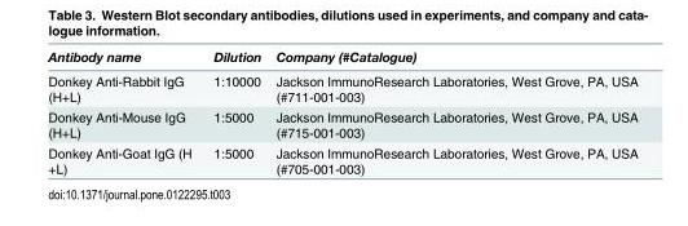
<table><thead><tr><td>Antibody name</td><td>Dilution</td><td>Company (#Catalogue)</td></tr></thead><tbody><tr><td>Donkey Anti-Rabbit IgG (H+L)</td><td>1:10000</td><td>Jackson ImmunoResearch Laboratories, West Grove, PA, USA (#711-001-003)</td></tr><tr><td>Donkey Anti-Mouse IgG (H+L)</td><td>1:5000</td><td>Jackson ImmunoResearch Laboratories, West Grove, PA, USA (#715-001-003)</td></tr><tr><td>Donkey Anti-Goat IgG (H +L)</td><td>1:5000</td><td>Jackson ImmunoResearch Laboratories, West Grove, PA, USA (#705-001-003)</td></tr></tbody></table>